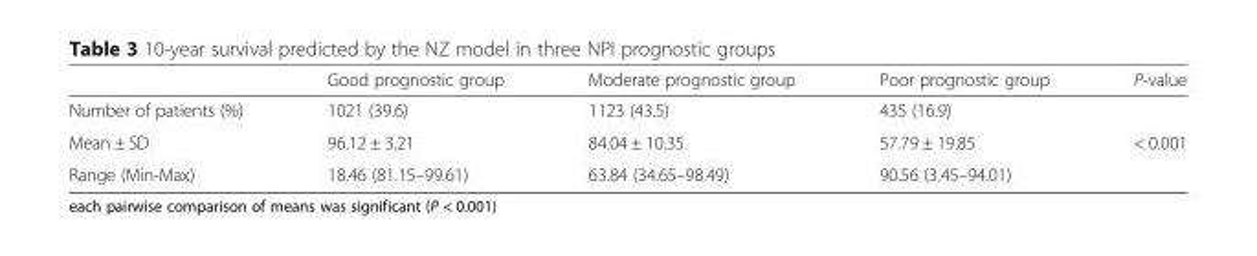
<table><thead><tr><td></td><td>Good prognostic group</td><td>Moderate prognostic group</td><td>Poor prognostic group</td><td>P-value</td></tr></thead><tbody><tr><td>Number of patients (%)</td><td>1021 (39.6)</td><td>1123 (43.5)</td><td>435 (16.9)</td><td></td></tr><tr><td>Mean ± SD</td><td>96.12 ± 3.21</td><td>84.04 ± 10.35</td><td>57.79 ± 19.85</td><td>&lt; 0.001</td></tr><tr><td>Range (Min-Max)</td><td>18.46 (81.15–99.61)</td><td>63.84 (34.65–98.49)</td><td>90.56 (3.45–94.01)</td><td></td></tr></tbody></table>